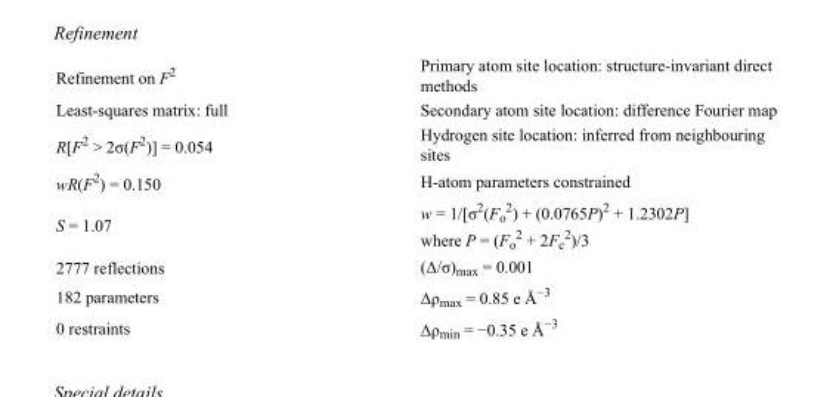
<table><tbody><tr><td>Refinement on F<sup>2</sup></td><td>Primary atom site location: structure-invariant direct methods</td></tr><tr><td>Least-squares matrix: full</td><td>Secondary atom site location: difference Fourier map</td></tr><tr><td>R[F<sup>2</sup> &gt; 2σ(F<sup>2</sup>)] = 0.054</td><td>Hydrogen site location: inferred from neighbouring sites</td></tr><tr><td>wR(F<sup>2</sup>) = 0.150</td><td>H-atom parameters constrained</td></tr><tr><td>S = 1.07</td><td>w = 1/[σ<sup>2</sup>(F<sub>o</sub> <sup>2</sup>) + (0.0765P)<sup>2</sup> + 1.2302P] where P = (F<sub>o</sub> <sup>2</sup> + 2F<sub>c</sub> <sup>2</sup>)/3</td></tr><tr><td>2777 reflections</td><td>(Δ/σ)<sub>max</sub> = 0.001</td></tr><tr><td>182 parameters</td><td>Δρ<sub>max</sub> = 0.85 e Å<sup>−3</sup></td></tr><tr><td>0 restraints</td><td>Δρ<sub>min</sub> = −0.35 e Å<sup>−3</sup></td></tr></tbody></table>